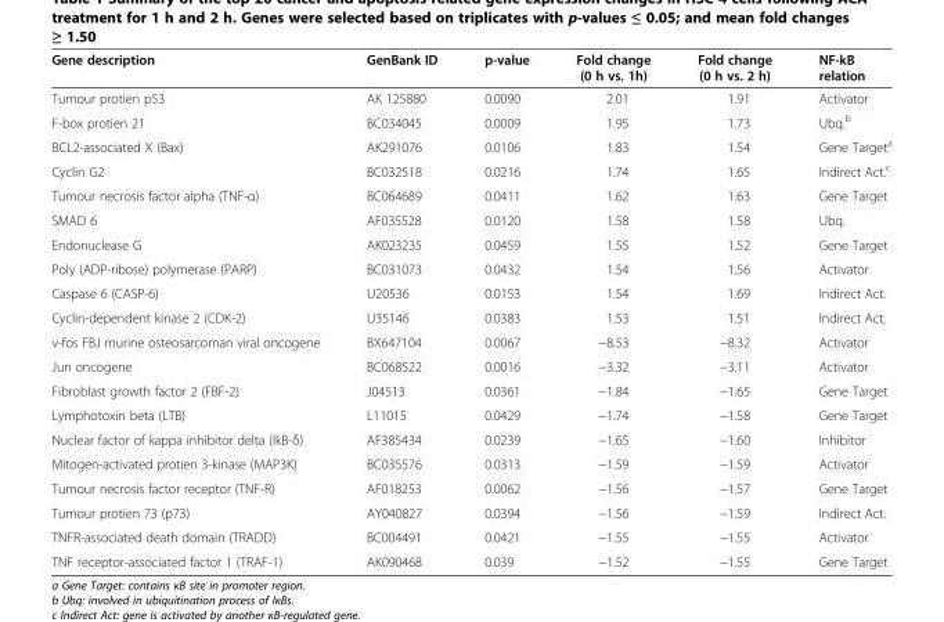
<table><thead><tr><td>Gene description</td><td>GenBank ID</td><td>p-value</td><td>Fold change (0 h vs. 1h)</td><td>Fold change (0 h vs. 2 h)</td><td>NF-kB relation</td></tr></thead><tbody><tr><td>Tumour protien p53</td><td>AK 125880</td><td>0.0090</td><td>2.01</td><td>1.91</td><td>Activator</td></tr><tr><td>F-box protien 21</td><td>BC034045</td><td>0.0009</td><td>1.95</td><td>1.73</td><td>Ubq.<sup>b</sup></td></tr><tr><td>BCL2-associated X (Bax)</td><td>AK291076</td><td>0.0106</td><td>1.83</td><td>1.54</td><td>Gene Target<sup>a</sup></td></tr><tr><td>Cyclin G2</td><td>BC032518</td><td>0.0216</td><td>1.74</td><td>1.65</td><td>Indirect Act.<sup>c</sup></td></tr><tr><td>Tumour necrosis factor alpha (TNF-α)</td><td>BC064689</td><td>0.0411</td><td>1.62</td><td>1.63</td><td>Gene Target</td></tr><tr><td>SMAD 6</td><td>AF035528</td><td>0.0120</td><td>1.58</td><td>1.58</td><td>Ubq.</td></tr><tr><td>Endonuclease G</td><td>AK023235</td><td>0.0459</td><td>1.55</td><td>1.52</td><td>Gene Target</td></tr><tr><td>Poly (ADP-ribose) polymerase (PARP)</td><td>BC031073</td><td>0.0432</td><td>1.54</td><td>1.56</td><td>Activator</td></tr><tr><td>Caspase 6 (CASP-6)</td><td>U20536</td><td>0.0153</td><td>1.54</td><td>1.69</td><td>Indirect Act.</td></tr><tr><td>Cyclin-dependent kinase 2 (CDK-2)</td><td>U35146</td><td>0.0383</td><td>1.53</td><td>1.51</td><td>Indirect Act.</td></tr><tr><td>v-fos FBJ murine osteosarcoman viral oncogene</td><td>BX647104</td><td>0.0067</td><td>−8.53</td><td>−8.32</td><td>Activator</td></tr><tr><td>Jun oncogene</td><td>BC068522</td><td>0.0016</td><td>−3.32</td><td>−3.11</td><td>Activator</td></tr><tr><td>Fibroblast growth factor 2 (FBF-2)</td><td>J04513</td><td>0.0361</td><td>−1.84</td><td>−1.65</td><td>Gene Target</td></tr><tr><td>Lymphotoxin beta (LTB)</td><td>L11015</td><td>0.0429</td><td>−1.74</td><td>−1.58</td><td>Gene Target</td></tr><tr><td>Nuclear factor of kappa inhibitor delta (lkB-δ)</td><td>AF385434</td><td>0.0239</td><td>−1.65</td><td>−1.60</td><td>Inhibitor</td></tr><tr><td>Mitogen-activated protien 3-kinase (MAP3K)</td><td>BC035576</td><td>0.0313</td><td>−1.59</td><td>−1.59</td><td>Activator</td></tr><tr><td>Tumour necrosis factor receptor (TNF-R)</td><td>AF018253</td><td>0.0062</td><td>−1.56</td><td>−1.57</td><td>Gene Target</td></tr><tr><td>Tumour protien 73 (p73)</td><td>AY040827</td><td>0.0394</td><td>−1.56</td><td>−1.59</td><td>Indirect Act.</td></tr><tr><td>TNFR-associated death domain (TRADD)</td><td>BC004491</td><td>0.0421</td><td>−1.55</td><td>−1.55</td><td>Activator</td></tr><tr><td>TNF receptor-associated factor 1 (TRAF-1)</td><td>AK090468</td><td>0.039</td><td>−1.52</td><td>−1.55</td><td>Gene Target</td></tr></tbody></table>